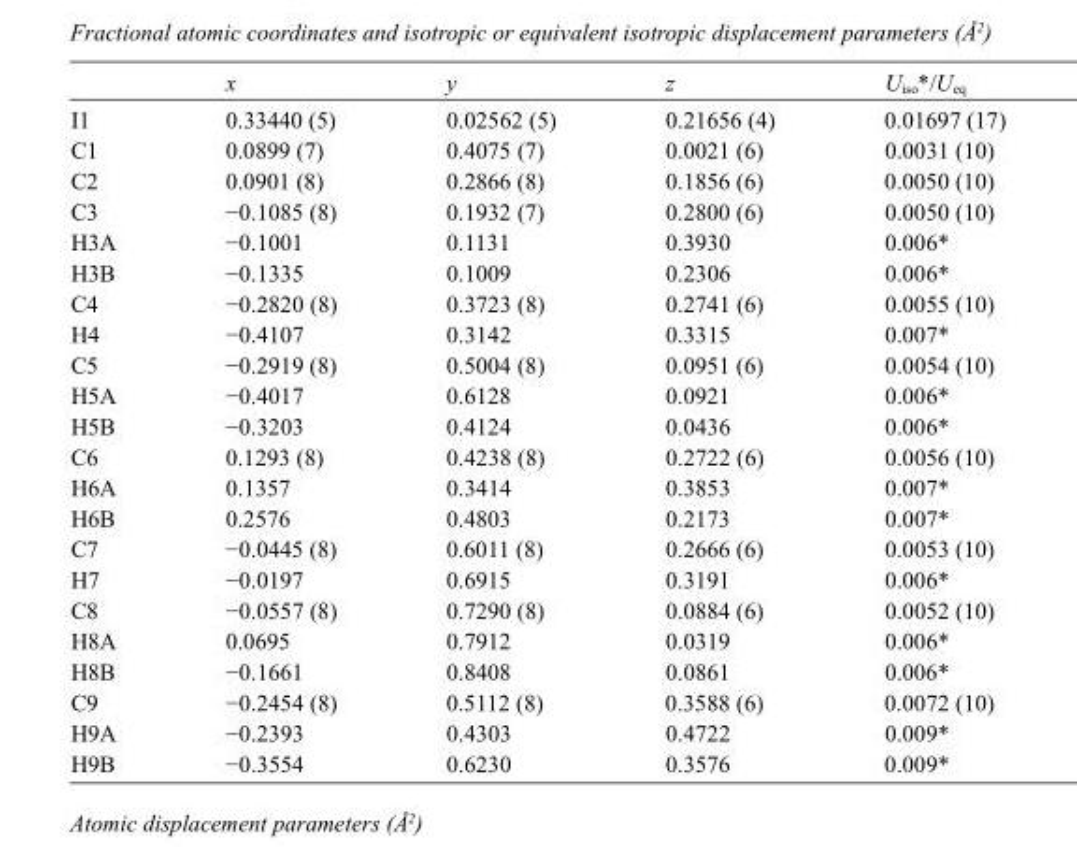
<table><thead><tr><td></td><td>x</td><td>y</td><td>z</td><td>U<sub>iso</sub>*/U<sub>eq</sub></td></tr></thead><tbody><tr><td>I1</td><td>0.33440 (5)</td><td>0.02562 (5)</td><td>0.21656 (4)</td><td>0.01697 (17)</td></tr><tr><td>C1</td><td>0.0899 (7)</td><td>0.4075 (7)</td><td>0.0021 (6)</td><td>0.0031 (10)</td></tr><tr><td>C2</td><td>0.0901 (8)</td><td>0.2866 (8)</td><td>0.1856 (6)</td><td>0.0050 (10)</td></tr><tr><td>C3</td><td>−0.1085 (8)</td><td>0.1932 (7)</td><td>0.2800 (6)</td><td>0.0050 (10)</td></tr><tr><td>H3A</td><td>−0.1001</td><td>0.1131</td><td>0.3930</td><td>0.006*</td></tr><tr><td>H3B</td><td>−0.1335</td><td>0.1009</td><td>0.2306</td><td>0.006*</td></tr><tr><td>C4</td><td>−0.2820 (8)</td><td>0.3723 (8)</td><td>0.2741 (6)</td><td>0.0055 (10)</td></tr><tr><td>H4</td><td>−0.4107</td><td>0.3142</td><td>0.3315</td><td>0.007*</td></tr><tr><td>C5</td><td>−0.2919 (8)</td><td>0.5004 (8)</td><td>0.0951 (6)</td><td>0.0054 (10)</td></tr><tr><td>H5A</td><td>−0.4017</td><td>0.6128</td><td>0.0921</td><td>0.006*</td></tr><tr><td>H5B</td><td>−0.3203</td><td>0.4124</td><td>0.0436</td><td>0.006*</td></tr><tr><td>C6</td><td>0.1293 (8)</td><td>0.4238 (8)</td><td>0.2722 (6)</td><td>0.0056 (10)</td></tr><tr><td>H6A</td><td>0.1357</td><td>0.3414</td><td>0.3853</td><td>0.007*</td></tr><tr><td>H6B</td><td>0.2576</td><td>0.4803</td><td>0.2173</td><td>0.007*</td></tr><tr><td>C7</td><td>−0.0445 (8)</td><td>0.6011 (8)</td><td>0.2666 (6)</td><td>0.0053 (10)</td></tr><tr><td>H7</td><td>−0.0197</td><td>0.6915</td><td>0.3191</td><td>0.006*</td></tr><tr><td>C8</td><td>−0.0557 (8)</td><td>0.7290 (8)</td><td>0.0884 (6)</td><td>0.0052 (10)</td></tr><tr><td>H8A</td><td>0.0695</td><td>0.7912</td><td>0.0319</td><td>0.006*</td></tr><tr><td>H8B</td><td>−0.1661</td><td>0.8408</td><td>0.0861</td><td>0.006*</td></tr><tr><td>C9</td><td>−0.2454 (8)</td><td>0.5112 (8)</td><td>0.3588 (6)</td><td>0.0072 (10)</td></tr><tr><td>H9A</td><td>−0.2393</td><td>0.4303</td><td>0.4722</td><td>0.009*</td></tr><tr><td>H9B</td><td>−0.3554</td><td>0.6230</td><td>0.3576</td><td>0.009*</td></tr></tbody></table>